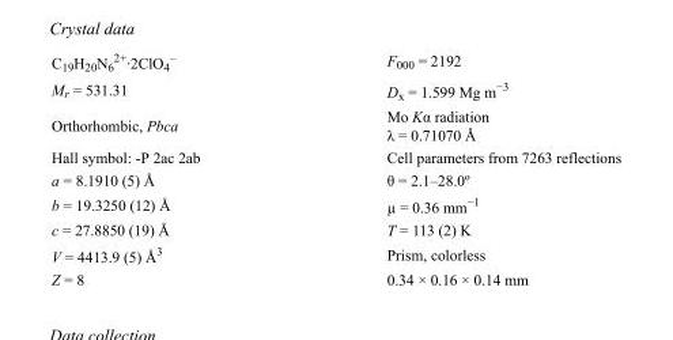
<table><tbody><tr><td>C19H20N6 2+·2ClO4 –</td><td>F000 = 2192</td></tr><tr><td>Mr = 531.31</td><td>Dx = 1.599 Mg m−3</td></tr><tr><td>Orthorhombic, Pbca</td><td>Mo Kα radiation λ = 0.71070 Å</td></tr><tr><td>Hall symbol: -P 2ac 2ab</td><td>Cell parameters from 7263 reflections</td></tr><tr><td>a = 8.1910 (5) Å</td><td>θ = 2.1–28.0º</td></tr><tr><td>b = 19.3250 (12) Å</td><td>µ = 0.36 mm−1</td></tr><tr><td>c = 27.8850 (19) Å</td><td>T = 113 (2) K</td></tr><tr><td>V = 4413.9 (5) Å3</td><td>Prism, colorless</td></tr><tr><td>Z = 8</td><td>0.34 × 0.16 × 0.14 mm</td></tr></tbody></table>